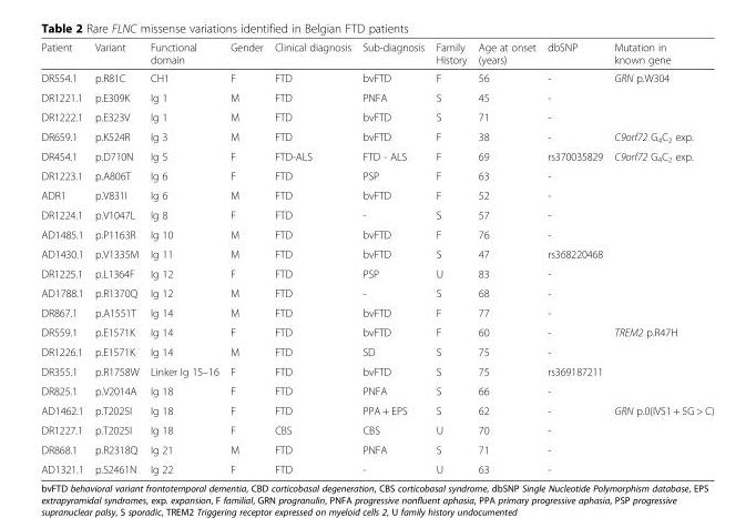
<table><thead><tr><td>Patient</td><td>Variant</td><td>Functional domain</td><td>Gender</td><td>Clinical diagnosis</td><td>Sub-diagnosis</td><td>Family History</td><td>Age at onset (years)</td><td>dbSNP</td><td>Mutation in known gene</td></tr></thead><tbody><tr><td>DR554.1</td><td>p.R81C</td><td>CH1</td><td>F</td><td>FTD</td><td>bvFTD</td><td>F</td><td>56</td><td>-</td><td>GRN p.W304</td></tr><tr><td>DR1221.1</td><td>p.E309K</td><td>Ig 1</td><td>M</td><td>FTD</td><td>PNFA</td><td>S</td><td>45</td><td>-</td><td></td></tr><tr><td>DR1222.1</td><td>p.E323V</td><td>Ig 1</td><td>M</td><td>FTD</td><td>bvFTD</td><td>S</td><td>71</td><td>-</td><td></td></tr><tr><td>DR659.1</td><td>p.K524R</td><td>Ig 3</td><td>M</td><td>FTD</td><td>bvFTD</td><td>F</td><td>38</td><td>-</td><td>C9orf72 G<sub>4</sub>C<sub>2</sub> exp.</td></tr><tr><td>DR454.1</td><td>p.D710N</td><td>Ig 5</td><td>F</td><td>FTD-ALS</td><td>FTD - ALS</td><td>F</td><td>69</td><td>rs370035829</td><td>C9orf72 G<sub>4</sub>C<sub>2</sub> exp.</td></tr><tr><td>DR1223.1</td><td>p.A806T</td><td>Ig 6</td><td>F</td><td>FTD</td><td>PSP</td><td>F</td><td>63</td><td>-</td><td></td></tr><tr><td>ADR1</td><td>p.V831I</td><td>Ig 6</td><td>M</td><td>FTD</td><td>bvFTD</td><td>F</td><td>52</td><td>-</td><td></td></tr><tr><td>DR1224.1</td><td>p.V1047L</td><td>Ig 8</td><td>F</td><td>FTD</td><td>-</td><td>S</td><td>57</td><td>-</td><td></td></tr><tr><td>AD1485.1</td><td>p.P1163R</td><td>Ig 10</td><td>M</td><td>FTD</td><td>bvFTD</td><td>F</td><td>76</td><td>-</td><td></td></tr><tr><td>AD1430.1</td><td>p.V1335M</td><td>Ig 11</td><td>M</td><td>FTD</td><td>bvFTD</td><td>S</td><td>47</td><td>rs368220468</td><td></td></tr><tr><td>DR1225.1</td><td>p.L1364F</td><td>Ig 12</td><td>F</td><td>FTD</td><td>PSP</td><td>U</td><td>83</td><td>-</td><td></td></tr><tr><td>AD1788.1</td><td>p.R1370Q</td><td>Ig 12</td><td>M</td><td>FTD</td><td>-</td><td>S</td><td>68</td><td>-</td><td></td></tr><tr><td>DR867.1</td><td>p.A1551T</td><td>Ig 14</td><td>M</td><td>FTD</td><td>bvFTD</td><td>F</td><td>77</td><td>-</td><td></td></tr><tr><td>DR559.1</td><td>p.E1571K</td><td>Ig 14</td><td>F</td><td>FTD</td><td>bvFTD</td><td>F</td><td>60</td><td>-</td><td>TREM2 p.R47H</td></tr><tr><td>DR1226.1</td><td>p.E1571K</td><td>Ig 14</td><td>M</td><td>FTD</td><td>SD</td><td>S</td><td>75</td><td>-</td><td></td></tr><tr><td>DR355.1</td><td>p.R1758W</td><td>Linker Ig 15–16</td><td>F</td><td>FTD</td><td>bvFTD</td><td>S</td><td>75</td><td>rs369187211</td><td></td></tr><tr><td>DR825.1</td><td>p.V2014A</td><td>Ig 18</td><td>F</td><td>FTD</td><td>PNFA</td><td>S</td><td>66</td><td>-</td><td></td></tr><tr><td>AD1462.1</td><td>p.T2025I</td><td>Ig 18</td><td>F</td><td>FTD</td><td>PPA + EPS</td><td>S</td><td>62</td><td>-</td><td>GRN p.0(IVS1 + 5G &gt; C)</td></tr><tr><td>DR1227.1</td><td>p.T2025I</td><td>Ig 18</td><td>F</td><td>CBS</td><td>CBS</td><td>U</td><td>70</td><td>-</td><td></td></tr><tr><td>DR868.1</td><td>p.R2318Q</td><td>Ig 21</td><td>M</td><td>FTD</td><td>PNFA</td><td>S</td><td>71</td><td>-</td><td></td></tr><tr><td>AD1321.1</td><td>p.S2461N</td><td>Ig 22</td><td>F</td><td>FTD</td><td>-</td><td>U</td><td>63</td><td>-</td><td></td></tr></tbody></table>